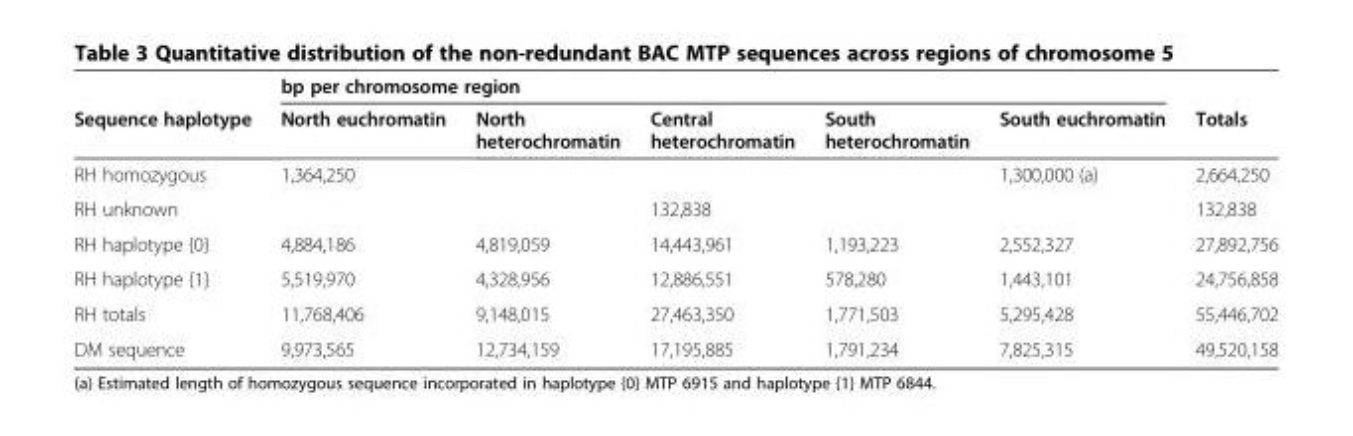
<table><thead><tr><td rowspan="2">Sequence haplotype</td><td colspan="5">bp per chromosome region</td><td rowspan="2">Totals</td></tr><tr><td>North euchromatin</td><td>North heterochromatin</td><td>Central heterochromatin</td><td>South heterochromatin</td><td>South euchromatin</td></tr></thead><tbody><tr><td>RH homozygous</td><td>1,364,250</td><td></td><td></td><td></td><td>1,300,000 (a)</td><td>2,664,250</td></tr><tr><td>RH unknown</td><td></td><td></td><td>132,838</td><td></td><td></td><td>132,838</td></tr><tr><td>RH haplotype {0}</td><td>4,884,186</td><td>4,819,059</td><td>14,443,961</td><td>1,193,223</td><td>2,552,327</td><td>27,892,756</td></tr><tr><td>RH haplotype {1}</td><td>5,519,970</td><td>4,328,956</td><td>12,886,551</td><td>578,280</td><td>1,443,101</td><td>24,756,858</td></tr><tr><td>RH totals</td><td>11,768,406</td><td>9,148,015</td><td>27,463,350</td><td>1,771,503</td><td>5,295,428</td><td>55,446,702</td></tr><tr><td>DM sequence</td><td>9,973,565</td><td>12,734,159</td><td>17,195,885</td><td>1,791,234</td><td>7,825,315</td><td>49,520,158</td></tr></tbody></table>